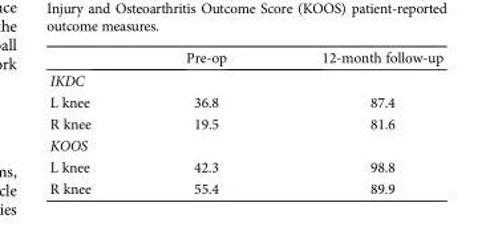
<table><thead><tr><td></td><td>Pre-op</td><td>12-month follow-up</td></tr></thead><tbody><tr><td colspan="3">IKDC</td></tr><tr><td>L knee</td><td>36.8</td><td>87.4</td></tr><tr><td>R knee</td><td>19.5</td><td>81.6</td></tr><tr><td colspan="3">KOOS</td></tr><tr><td>L knee</td><td>42.3</td><td>98.8</td></tr><tr><td>R knee</td><td>55.4</td><td>89.9</td></tr></tbody></table>